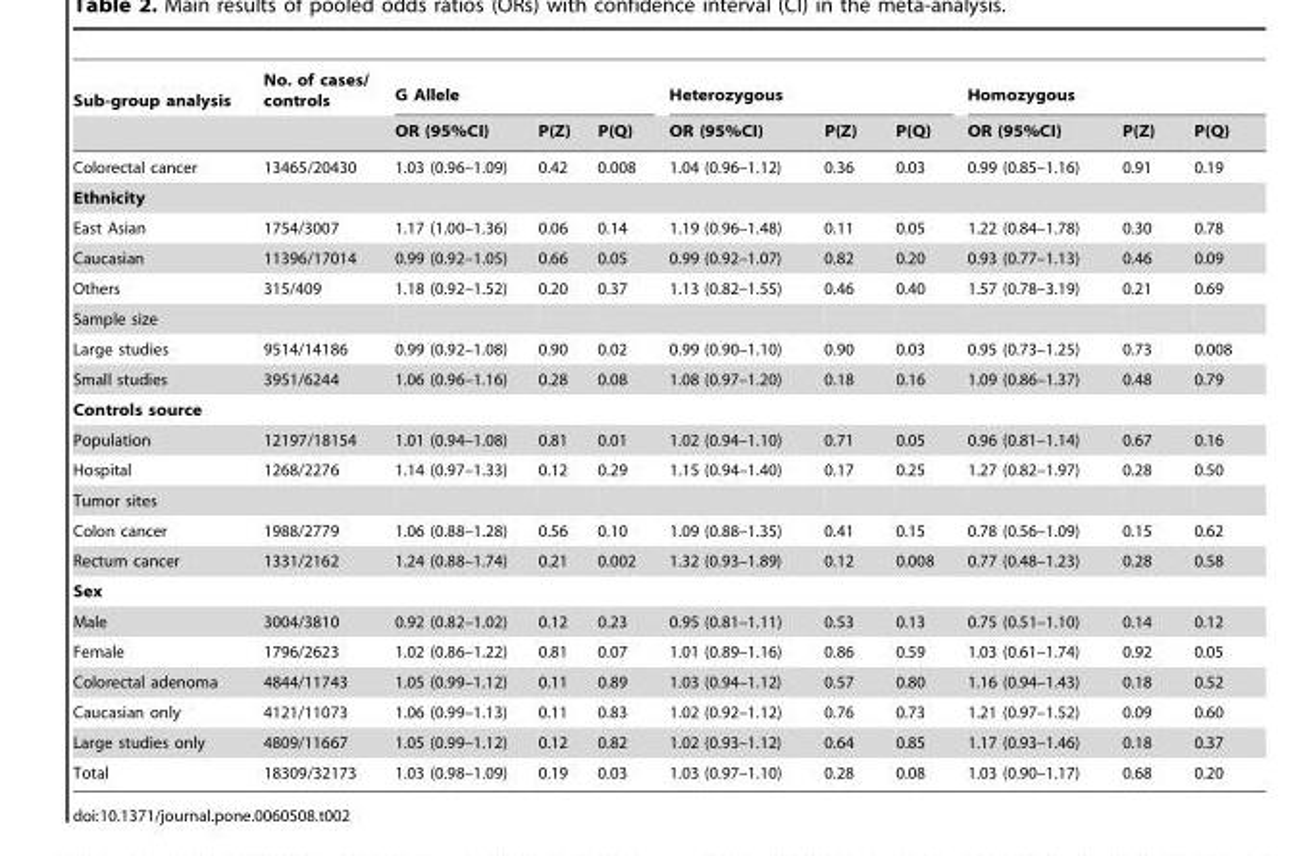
<table><thead><tr><td rowspan="2">Sub-group analysis</td><td rowspan="2">No. of cases/ controls</td><td colspan="3">G Allele</td><td colspan="3">Heterozygous</td><td colspan="3">Homozygous</td></tr><tr><td>OR (95%CI)</td><td>P(Z)</td><td>P(Q)</td><td>OR (95%CI)</td><td>P(Z)</td><td>P(Q)</td><td>OR (95%CI)</td><td>P(Z)</td><td>P(Q)</td></tr></thead><tbody><tr><td>Colorectal cancer</td><td>13465/20430</td><td>1.03 (0.96–1.09)</td><td>0.42</td><td>0.008</td><td>1.04 (0.96–1.12)</td><td>0.36</td><td>0.03</td><td>0.99 (0.85–1.16)</td><td>0.91</td><td>0.19</td></tr><tr><td colspan="11">Ethnicity</td></tr><tr><td>East Asian</td><td>1754/3007</td><td>1.17 (1.00–1.36)</td><td>0.06</td><td>0.14</td><td>1.19 (0.96–1.48)</td><td>0.11</td><td>0.05</td><td>1.22 (0.84–1.78)</td><td>0.30</td><td>0.78</td></tr><tr><td>Caucasian</td><td>11396/17014</td><td>0.99 (0.92–1.05)</td><td>0.66</td><td>0.05</td><td>0.99 (0.92–1.07)</td><td>0.82</td><td>0.20</td><td>0.93 (0.77–1.13)</td><td>0.46</td><td>0.09</td></tr><tr><td>Others</td><td>315/409</td><td>1.18 (0.92–1.52)</td><td>0.20</td><td>0.37</td><td>1.13 (0.82–1.55)</td><td>0.46</td><td>0.40</td><td>1.57 (0.78–3.19)</td><td>0.21</td><td>0.69</td></tr><tr><td colspan="11">Sample size</td></tr><tr><td>Large studies</td><td>9514/14186</td><td>0.99 (0.92–1.08)</td><td>0.90</td><td>0.02</td><td>0.99 (0.90–1.10)</td><td>0.90</td><td>0.03</td><td>0.95 (0.73–1.25)</td><td>0.73</td><td>0.008</td></tr><tr><td>Small studies</td><td>3951/6244</td><td>1.06 (0.96–1.16)</td><td>0.28</td><td>0.08</td><td>1.08 (0.97–1.20)</td><td>0.18</td><td>0.16</td><td>1.09 (0.86–1.37)</td><td>0.48</td><td>0.79</td></tr><tr><td colspan="11">Controls source</td></tr><tr><td>Population</td><td>12197/18154</td><td>1.01 (0.94–1.08)</td><td>0.81</td><td>0.01</td><td>1.02 (0.94–1.10)</td><td>0.71</td><td>0.05</td><td>0.96 (0.81–1.14)</td><td>0.67</td><td>0.16</td></tr><tr><td>Hospital</td><td>1268/2276</td><td>1.14 (0.97–1.33)</td><td>0.12</td><td>0.29</td><td>1.15 (0.94–1.40)</td><td>0.17</td><td>0.25</td><td>1.27 (0.82–1.97)</td><td>0.28</td><td>0.50</td></tr><tr><td colspan="11">Tumor sites</td></tr><tr><td>Colon cancer</td><td>1988/2779</td><td>1.06 (0.88–1.28)</td><td>0.56</td><td>0.10</td><td>1.09 (0.88–1.35)</td><td>0.41</td><td>0.15</td><td>0.78 (0.56–1.09)</td><td>0.15</td><td>0.62</td></tr><tr><td>Rectum cancer</td><td>1331/2162</td><td>1.24 (0.88–1.74)</td><td>0.21</td><td>0.002</td><td>1.32 (0.93–1.89)</td><td>0.12</td><td>0.008</td><td>0.77 (0.48–1.23)</td><td>0.28</td><td>0.58</td></tr><tr><td colspan="11">Sex</td></tr><tr><td>Male</td><td>3004/3810</td><td>0.92 (0.82–1.02)</td><td>0.12</td><td>0.23</td><td>0.95 (0.81–1.11)</td><td>0.53</td><td>0.13</td><td>0.75 (0.51–1.10)</td><td>0.14</td><td>0.12</td></tr><tr><td>Female</td><td>1796/2623</td><td>1.02 (0.86–1.22)</td><td>0.81</td><td>0.07</td><td>1.01 (0.89–1.16)</td><td>0.86</td><td>0.59</td><td>1.03 (0.61–1.74)</td><td>0.92</td><td>0.05</td></tr><tr><td>Colorectal adenoma</td><td>4844/11743</td><td>1.05 (0.99–1.12)</td><td>0.11</td><td>0.89</td><td>1.03 (0.94–1.12)</td><td>0.57</td><td>0.80</td><td>1.16 (0.94–1.43)</td><td>0.18</td><td>0.52</td></tr><tr><td>Caucasian only</td><td>4121/11073</td><td>1.06 (0.99–1.13)</td><td>0.11</td><td>0.83</td><td>1.02 (0.92–1.12)</td><td>0.76</td><td>0.73</td><td>1.21 (0.97–1.52)</td><td>0.09</td><td>0.60</td></tr><tr><td>Large studies only</td><td>4809/11667</td><td>1.05 (0.99–1.12)</td><td>0.12</td><td>0.82</td><td>1.02 (0.93–1.12)</td><td>0.64</td><td>0.85</td><td>1.17 (0.93–1.46)</td><td>0.18</td><td>0.37</td></tr><tr><td>Total</td><td>18309/32173</td><td>1.03 (0.98–1.09)</td><td>0.19</td><td>0.03</td><td>1.03 (0.97–1.10)</td><td>0.28</td><td>0.08</td><td>1.03 (0.90–1.17)</td><td>0.68</td><td>0.20</td></tr></tbody></table>